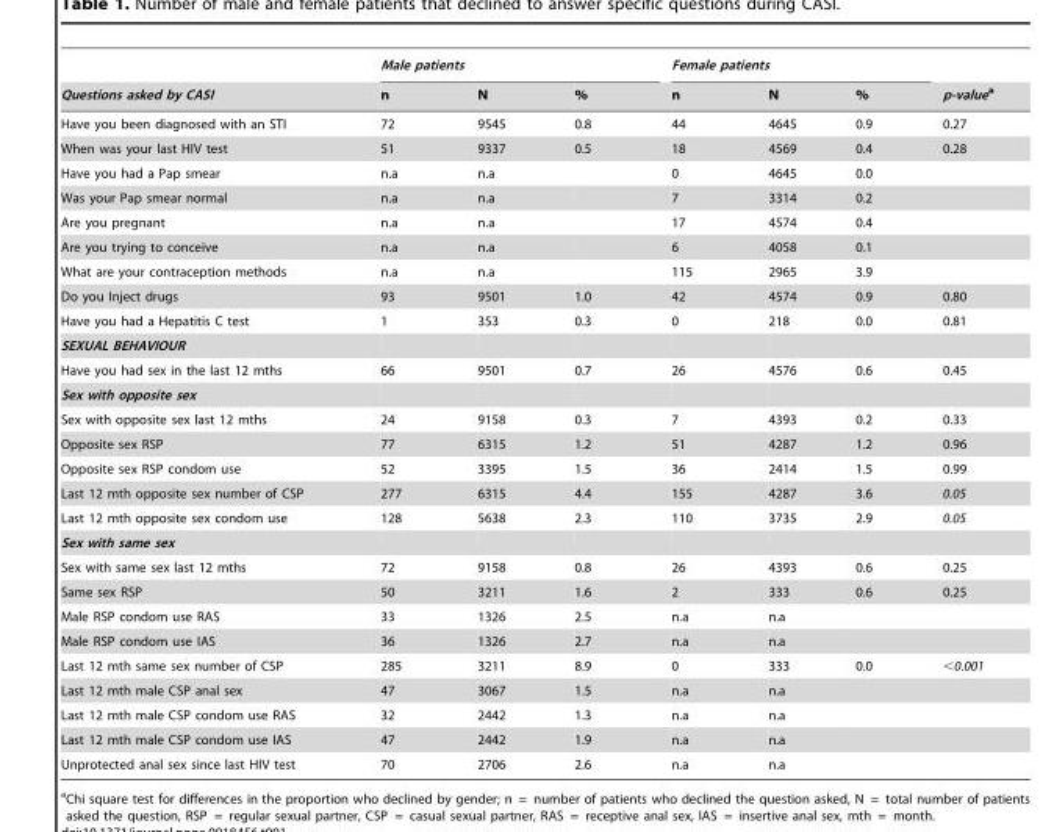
<table><thead><tr><td rowspan="2">Questions asked by CASI</td><td colspan="3">Male patients</td><td colspan="3">Female patients</td><td rowspan="2">p-valuea</td></tr><tr><td>n</td><td>N</td><td>%</td><td>n</td><td>N</td><td>%</td></tr></thead><tbody><tr><td>Have you been diagnosed with an STI</td><td>72</td><td>9545</td><td>0.8</td><td>44</td><td>4645</td><td>0.9</td><td>0.27</td></tr><tr><td>When was your last HIV test</td><td>51</td><td>9337</td><td>0.5</td><td>18</td><td>4569</td><td>0.4</td><td>0.28</td></tr><tr><td>Have you had a Pap smear</td><td>n.a</td><td>n.a</td><td></td><td>0</td><td>4645</td><td>0.0</td><td></td></tr><tr><td>Was your Pap smear normal</td><td>n.a</td><td>n.a</td><td></td><td>7</td><td>3314</td><td>0.2</td><td></td></tr><tr><td>Are you pregnant</td><td>n.a</td><td>n.a</td><td></td><td>17</td><td>4574</td><td>0.4</td><td></td></tr><tr><td>Are you trying to conceive</td><td>n.a</td><td>n.a</td><td></td><td>6</td><td>4058</td><td>0.1</td><td></td></tr><tr><td>What are your contraception methods</td><td>n.a</td><td>n.a</td><td></td><td>115</td><td>2965</td><td>3.9</td><td></td></tr><tr><td>Do you Inject drugs</td><td>93</td><td>9501</td><td>1.0</td><td>42</td><td>4574</td><td>0.9</td><td>0.80</td></tr><tr><td>Have you had a Hepatitis C test</td><td>1</td><td>353</td><td>0.3</td><td>0</td><td>218</td><td>0.0</td><td>0.81</td></tr><tr><td colspan="8">SEXUAL BEHAVIOUR</td></tr><tr><td>Have you had sex in the last 12 mths</td><td>66</td><td>9501</td><td>0.7</td><td>26</td><td>4576</td><td>0.6</td><td>0.45</td></tr><tr><td colspan="8">Sex with opposite sex</td></tr><tr><td>Sex with opposite sex last 12 mths</td><td>24</td><td>9158</td><td>0.3</td><td>7</td><td>4393</td><td>0.2</td><td>0.33</td></tr><tr><td>Opposite sex RSP</td><td>77</td><td>6315</td><td>1.2</td><td>51</td><td>4287</td><td>1.2</td><td>0.96</td></tr><tr><td>Opposite sex RSP condom use</td><td>52</td><td>3395</td><td>1.5</td><td>36</td><td>2414</td><td>1.5</td><td>0.99</td></tr><tr><td>Last 12 mth opposite sex number of CSP</td><td>277</td><td>6315</td><td>4.4</td><td>155</td><td>4287</td><td>3.6</td><td>0.05</td></tr><tr><td>Last 12 mth opposite sex condom use</td><td>128</td><td>5638</td><td>2.3</td><td>110</td><td>3735</td><td>2.9</td><td>0.05</td></tr><tr><td colspan="8">Sex with same sex</td></tr><tr><td>Sex with same sex last 12 mths</td><td>72</td><td>9158</td><td>0.8</td><td>26</td><td>4393</td><td>0.6</td><td>0.25</td></tr><tr><td>Same sex RSP</td><td>50</td><td>3211</td><td>1.6</td><td>2</td><td>333</td><td>0.6</td><td>0.25</td></tr><tr><td>Male RSP condom use RAS</td><td>33</td><td>1326</td><td>2.5</td><td>n.a</td><td>n.a</td><td></td><td></td></tr><tr><td>Male RSP condom use IAS</td><td>36</td><td>1326</td><td>2.7</td><td>n.a</td><td>n.a</td><td></td><td></td></tr><tr><td>Last 12 mth same sex number of CSP</td><td>285</td><td>3211</td><td>8.9</td><td>0</td><td>333</td><td>0.0</td><td>&lt;0.001</td></tr><tr><td>Last 12 mth male CSP anal sex</td><td>47</td><td>3067</td><td>1.5</td><td>n.a</td><td>n.a</td><td></td><td></td></tr><tr><td>Last 12 mth male CSP condom use RAS</td><td>32</td><td>2442</td><td>1.3</td><td>n.a</td><td>n.a</td><td></td><td></td></tr><tr><td>Last 12 mth male CSP condom use IAS</td><td>47</td><td>2442</td><td>1.9</td><td>n.a</td><td>n.a</td><td></td><td></td></tr><tr><td>Unprotected anal sex since last HIV test</td><td>70</td><td>2706</td><td>2.6</td><td>n.a</td><td>n.a</td><td></td><td></td></tr></tbody></table>